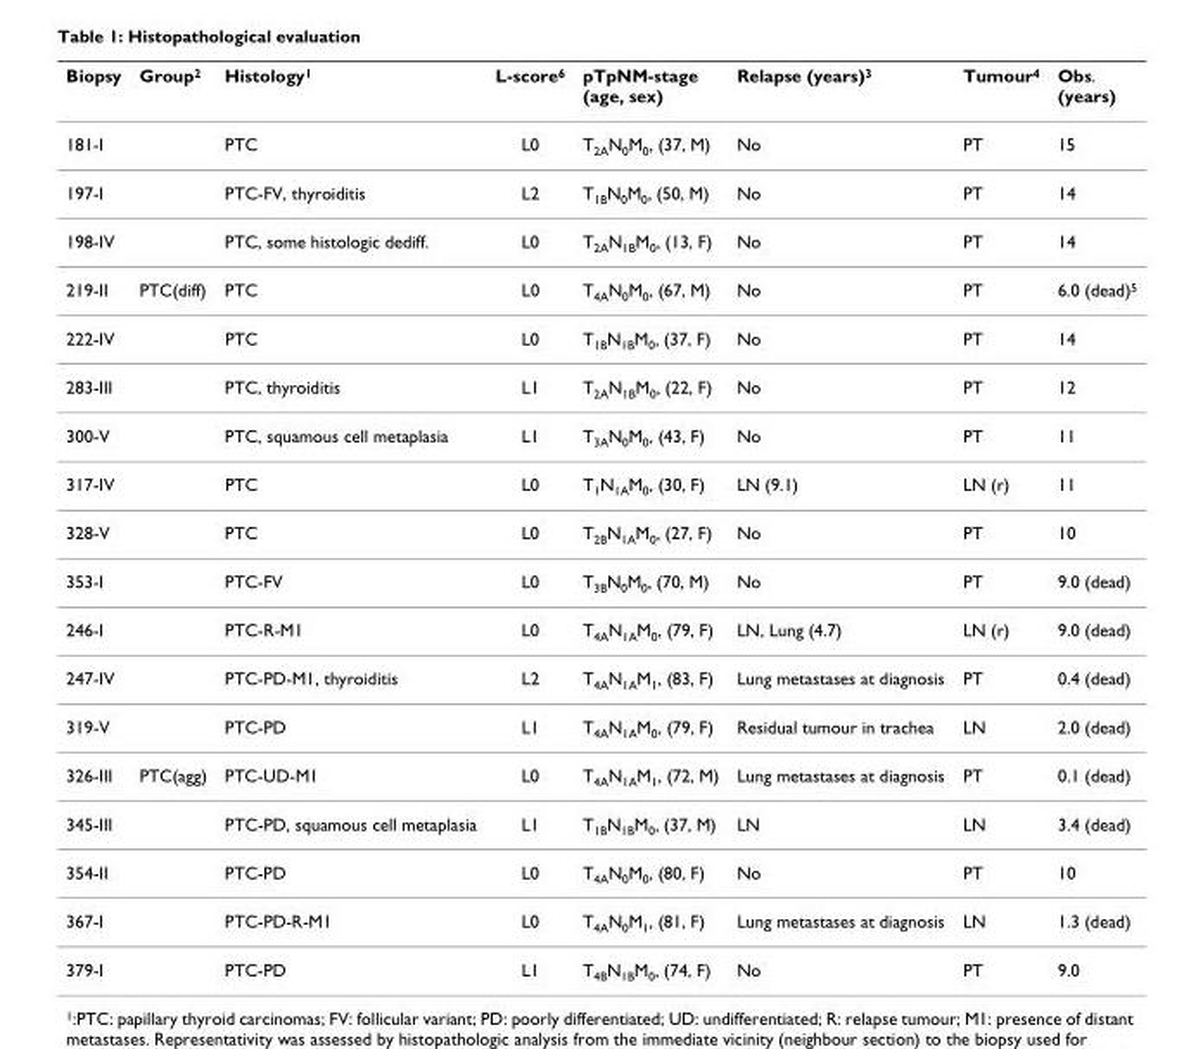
<table><thead><tr><td>Biopsy</td><td>Group<sup>2</sup></td><td>Histology<sup>1</sup></td><td>L-score<sup>6</sup></td><td>pTpNM-stage (age, sex)</td><td>Relapse (years)<sup>3</sup></td><td>Tumour<sup>4</sup></td><td>Obs. (years)</td></tr></thead><tbody><tr><td>181-I</td><td></td><td>PTC</td><td>L0</td><td>T<sub>2A</sub>N<sub>0</sub>M<sub>0</sub>, (37, M)</td><td>No</td><td>PT</td><td>15</td></tr><tr><td>197-I</td><td></td><td>PTC-FV, thyroiditis</td><td>L2</td><td>T<sub>1B</sub>N<sub>0</sub>M<sub>0</sub>, (50, M)</td><td>No</td><td>PT</td><td>14</td></tr><tr><td>198-IV</td><td></td><td>PTC, some histologic dediff.</td><td>L0</td><td>T<sub>2A</sub>N<sub>1B</sub>M<sub>0</sub>, (13, F)</td><td>No</td><td>PT</td><td>14</td></tr><tr><td>219-II</td><td>PTC(diff)</td><td>PTC</td><td>L0</td><td>T<sub>4A</sub>N<sub>0</sub>M<sub>0</sub>, (67, M)</td><td>No</td><td>PT</td><td>6.0 (dead)<sup>5</sup></td></tr><tr><td>222-IV</td><td></td><td>PTC</td><td>L0</td><td>T<sub>1B</sub>N<sub>1B</sub>M<sub>0</sub>, (37, F)</td><td>No</td><td>PT</td><td>14</td></tr><tr><td>283-III</td><td></td><td>PTC, thyroiditis</td><td>L1</td><td>T<sub>2A</sub>N<sub>1B</sub>M<sub>0</sub>, (22, F)</td><td>No</td><td>PT</td><td>12</td></tr><tr><td>300-V</td><td></td><td>PTC, squamous cell metaplasia</td><td>L1</td><td>T<sub>3A</sub>N<sub>0</sub>M<sub>0</sub>, (43, F)</td><td>No</td><td>PT</td><td>11</td></tr><tr><td>317-IV</td><td></td><td>PTC</td><td>L0</td><td>T<sub>1</sub>N<sub>1A</sub>M<sub>0</sub>, (30, F)</td><td>LN (9.1)</td><td>LN (r)</td><td>11</td></tr><tr><td>328-V</td><td></td><td>PTC</td><td>L0</td><td>T<sub>2B</sub>N<sub>1A</sub>M<sub>0</sub>, (27, F)</td><td>No</td><td>PT</td><td>10</td></tr><tr><td>353-I</td><td></td><td>PTC-FV</td><td>L0</td><td>T<sub>3B</sub>N<sub>0</sub>M<sub>0</sub>, (70, M)</td><td>No</td><td>PT</td><td>9.0 (dead)</td></tr><tr><td>246-I</td><td></td><td>PTC-R-M1</td><td>L0</td><td>T<sub>4A</sub>N<sub>1A</sub>M<sub>0</sub>, (79, F)</td><td>LN, Lung (4.7)</td><td>LN (r)</td><td>9.0 (dead)</td></tr><tr><td>247-IV</td><td></td><td>PTC-PD-M1, thyroiditis</td><td>L2</td><td>T<sub>4A</sub>N<sub>1A</sub>M<sub>1</sub>, (83, F)</td><td>Lung metastases at diagnosis</td><td>PT</td><td>0.4 (dead)</td></tr><tr><td>319-V</td><td></td><td>PTC-PD</td><td>L1</td><td>T<sub>4A</sub>N<sub>1A</sub>M<sub>0</sub>, (79, F)</td><td>Residual tumour in trachea</td><td>LN</td><td>2.0 (dead)</td></tr><tr><td>326-III</td><td>PTC(agg)</td><td>PTC-UD-M1</td><td>L0</td><td>T<sub>4A</sub>N<sub>1A</sub>M<sub>1</sub>, (72, M)</td><td>Lung metastases at diagnosis</td><td>PT</td><td>0.1 (dead)</td></tr><tr><td>345-III</td><td></td><td>PTC-PD, squamous cell metaplasia</td><td>L1</td><td>T<sub>1B</sub>N<sub>1B</sub>M<sub>0</sub>, (37, M)</td><td>LN</td><td>LN</td><td>3.4 (dead)</td></tr><tr><td>354-II</td><td></td><td>PTC-PD</td><td>L0</td><td>T<sub>4A</sub>N<sub>0</sub>M<sub>0</sub>, (80, F)</td><td>No</td><td>PT</td><td>10</td></tr><tr><td>367-I</td><td></td><td>PTC-PD-R-M1</td><td>L0</td><td>T<sub>4A</sub>N<sub>0</sub>M<sub>1</sub>, (81, F)</td><td>Lung metastases at diagnosis</td><td>LN</td><td>1.3 (dead)</td></tr><tr><td>379-I</td><td></td><td>PTC-PD</td><td>L1</td><td>T<sub>4B</sub>N<sub>1B</sub>M<sub>0</sub>, (74, F)</td><td>No</td><td>PT</td><td>9.0</td></tr></tbody></table>